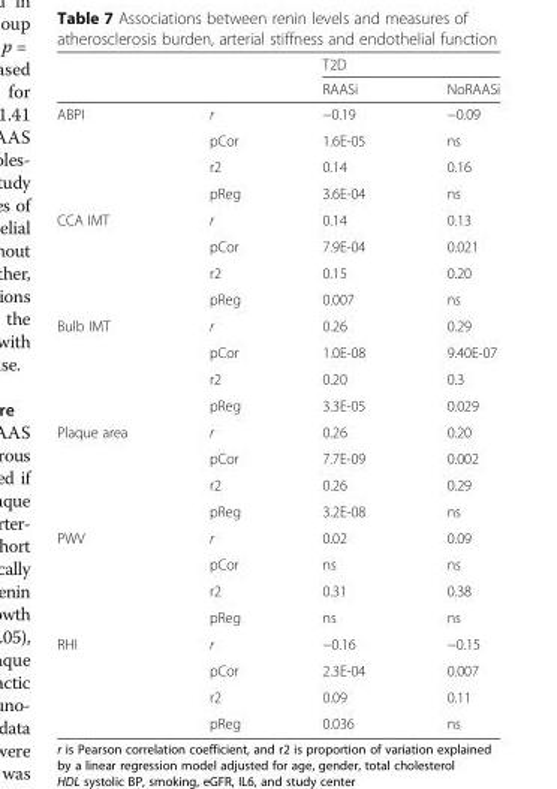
<table><thead><tr><td rowspan="2"></td><td rowspan="2"></td><td colspan="2">T2D</td></tr><tr><td>RAASi</td><td>NoRAASi</td></tr></thead><tbody><tr><td rowspan="4">ABPI</td><td>r</td><td>−0.19</td><td>−0.09</td></tr><tr><td>pCor</td><td>1.6E-05</td><td>ns</td></tr><tr><td>r2</td><td>0.14</td><td>0.16</td></tr><tr><td>pReg</td><td>3.6E-04</td><td>ns</td></tr><tr><td rowspan="4">CCA IMT</td><td>r</td><td>0.14</td><td>0.13</td></tr><tr><td>pCor</td><td>7.9E-04</td><td>0.021</td></tr><tr><td>r2</td><td>0.15</td><td>0.20</td></tr><tr><td>pReg</td><td>0.007</td><td>ns</td></tr><tr><td rowspan="4">Bulb IMT</td><td>r</td><td>0.26</td><td>0.29</td></tr><tr><td>pCor</td><td>1.0E-08</td><td>9.40E-07</td></tr><tr><td>r2</td><td>0.20</td><td>0.3</td></tr><tr><td>pReg</td><td>3.3E-05</td><td>0.029</td></tr><tr><td rowspan="4">Plaque area</td><td>r</td><td>0.26</td><td>0.20</td></tr><tr><td>pCor</td><td>7.7E-09</td><td>0.002</td></tr><tr><td>r2</td><td>0.26</td><td>0.29</td></tr><tr><td>pReg</td><td>3.2E-08</td><td>ns</td></tr><tr><td rowspan="4">PWV</td><td>r</td><td>0.02</td><td>0.09</td></tr><tr><td>pCor</td><td>ns</td><td>ns</td></tr><tr><td>r2</td><td>0.31</td><td>0.38</td></tr><tr><td>pReg</td><td>ns</td><td>ns</td></tr><tr><td rowspan="4">RHI</td><td>r</td><td>−0.16</td><td>−0.15</td></tr><tr><td>pCor</td><td>2.3E-04</td><td>0.007</td></tr><tr><td>r2</td><td>0.09</td><td>0.11</td></tr><tr><td>pReg</td><td>0.036</td><td>ns</td></tr></tbody></table>